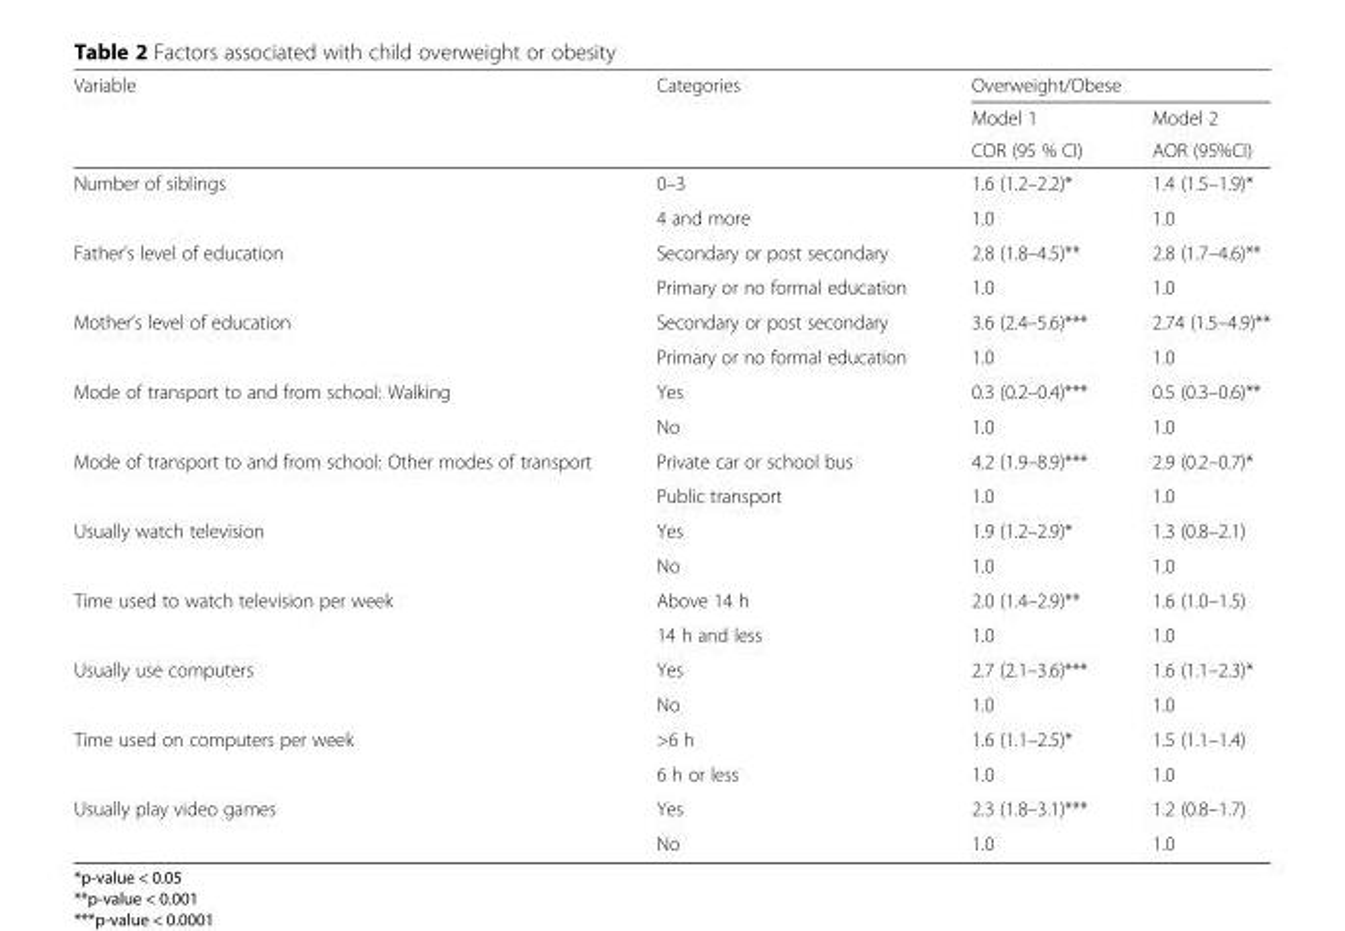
<table><thead><tr><td rowspan="3">Variable</td><td rowspan="3">Categories</td><td colspan="2">Overweight/Obese</td></tr><tr><td rowspan="2">Model 1 COR (95 % CI)</td><td rowspan="2">Model 2 AOR (95%CI)</td></tr><tr></tr></thead><tbody><tr><td rowspan="2">Number of siblings</td><td>0–3</td><td>1.6 (1.2–2.2)*</td><td>1.4 (1.5–1.9)*</td></tr><tr><td>4 and more</td><td>1.0</td><td>1.0</td></tr><tr><td rowspan="2">Father’s level of education</td><td>Secondary or post secondary</td><td>2.8 (1.8–4.5)**</td><td>2.8 (1.7–4.6)**</td></tr><tr><td>Primary or no formal education</td><td>1.0</td><td>1.0</td></tr><tr><td rowspan="2">Mother’s level of education</td><td>Secondary or post secondary</td><td>3.6 (2.4–5.6)***</td><td>2.74 (1.5–4.9)**</td></tr><tr><td>Primary or no formal education</td><td>1.0</td><td>1.0</td></tr><tr><td rowspan="2">Mode of transport to and from school: Walking</td><td>Yes</td><td>0.3 (0.2–0.4)***</td><td>0.5 (0.3–0.6)**</td></tr><tr><td>No</td><td>1.0</td><td>1.0</td></tr><tr><td rowspan="2">Mode of transport to and from school: Other modes of transport</td><td>Private car or school bus</td><td>4.2 (1.9–8.9)***</td><td>2.9 (0.2–0.7)*</td></tr><tr><td>Public transport</td><td>1.0</td><td>1.0</td></tr><tr><td rowspan="2">Usually watch television</td><td>Yes</td><td>1.9 (1.2–2.9)*</td><td>1.3 (0.8–2.1)</td></tr><tr><td>No</td><td>1.0</td><td>1.0</td></tr><tr><td rowspan="2">Time used to watch television per week</td><td>Above 14 h</td><td>2.0 (1.4–2.9)**</td><td>1.6 (1.0–1.5)</td></tr><tr><td>14 h and less</td><td>1.0</td><td>1.0</td></tr><tr><td rowspan="2">Usually use computers</td><td>Yes</td><td>2.7 (2.1–3.6)***</td><td>1.6 (1.1–2.3)*</td></tr><tr><td>No</td><td>1.0</td><td>1.0</td></tr><tr><td rowspan="2">Time used on computers per week</td><td>&gt;6 h</td><td>1.6 (1.1–2.5)*</td><td>1.5 (1.1–1.4)</td></tr><tr><td>6 h or less</td><td>1.0</td><td>1.0</td></tr><tr><td rowspan="2">Usually play video games</td><td>Yes</td><td>2.3 (1.8–3.1)***</td><td>1.2 (0.8–1.7)</td></tr><tr><td>No</td><td>1.0</td><td>1.0</td></tr></tbody></table>